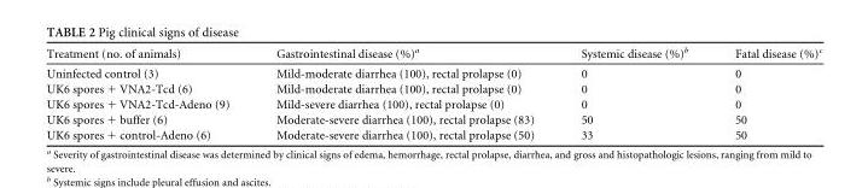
<table><thead><tr><td>Treatment (no. of animals)</td><td>Gastrointestinal disease (%)<sup>a</sup></td><td>Systemic disease (%)<sup>b</sup></td><td>Fatal disease (%)<sup>c</sup></td></tr></thead><tbody><tr><td>Uninfected control (3)</td><td>Mild-moderate diarrhea (100), rectal prolapse (0)</td><td>0</td><td>0</td></tr><tr><td>UK6 spores + VNA2-Tcd (6)</td><td>Mild-moderate diarrhea (100), rectal prolapse (0)</td><td>0</td><td>0</td></tr><tr><td>UK6 spores + VNA2-Tcd-Adeno (9)</td><td>Mild-severe diarrhea (100), rectal prolapse (0)</td><td>0</td><td>0</td></tr><tr><td>UK6 spores + buffer (6)</td><td>Moderate-severe diarrhea (100), rectal prolapse (83)</td><td>50</td><td>50</td></tr><tr><td>UK6 spores + control-Adeno (6)</td><td>Moderate-severe diarrhea (100), rectal prolapse (50)</td><td>33</td><td>50</td></tr></tbody></table>